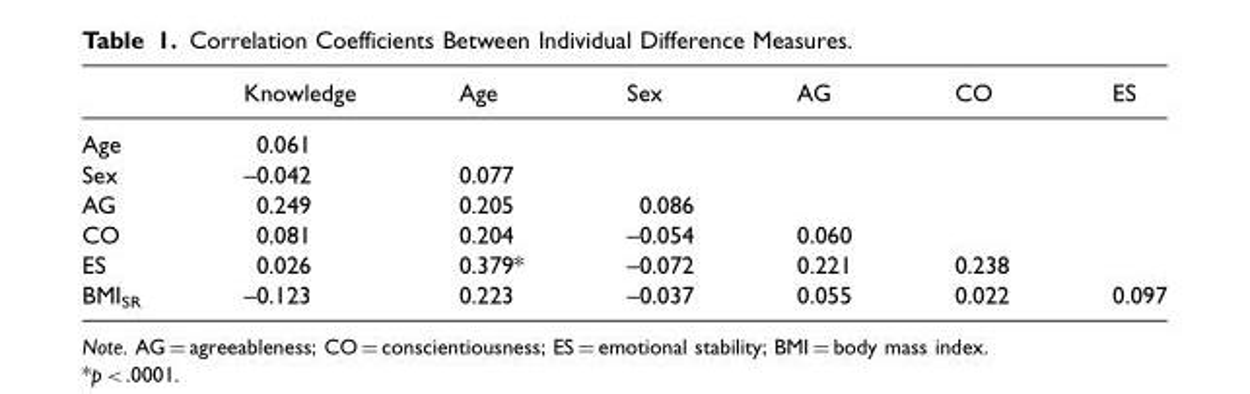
<table><thead><tr><td></td><td>Knowledge</td><td>Age</td><td>Sex</td><td>AG</td><td>CO</td><td>ES</td></tr></thead><tbody><tr><td>Age</td><td>0.061</td><td></td><td></td><td></td><td></td><td></td></tr><tr><td>Sex</td><td>–0.042</td><td>0.077</td><td></td><td></td><td></td><td></td></tr><tr><td>AG</td><td>0.249</td><td>0.205</td><td>0.086</td><td></td><td></td><td></td></tr><tr><td>CO</td><td>0.081</td><td>0.204</td><td>–0.054</td><td>0.060</td><td></td><td></td></tr><tr><td>ES</td><td>0.026</td><td>0.379*</td><td>–0.072</td><td>0.221</td><td>0.238</td><td></td></tr><tr><td>BMI<sub>SR</sub></td><td>–0.123</td><td>0.223</td><td>–0.037</td><td>0.055</td><td>0.022</td><td>0.097</td></tr></tbody></table>